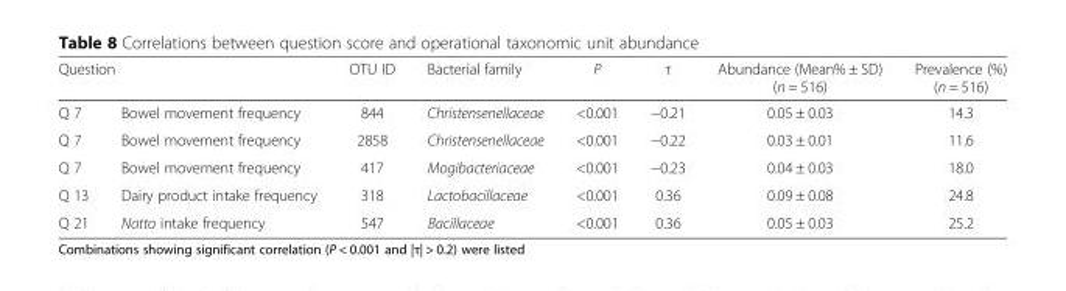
<table><thead><tr><td colspan="2">Question</td><td rowspan="2">OTU ID 844</td><td rowspan="2">Bacterial family Christensenellaceae</td><td rowspan="2">P &lt;0.001</td><td rowspan="2">τ −0.21</td><td rowspan="2">Abundance (Mean% ± SD) (n = 516) 0.05 ± 0.03</td><td rowspan="2">Prevalence (%) (n = 516) 14.3</td></tr><tr><td>Q 7</td><td>Bowel movement frequency</td></tr></thead><tbody><tr><td>Q 7</td><td>Bowel movement frequency</td><td>2858</td><td>Christensenellaceae</td><td>&lt;0.001</td><td>−0.22</td><td>0.03 ± 0.01</td><td>11.6</td></tr><tr><td>Q 7</td><td>Bowel movement frequency</td><td>417</td><td>Mogibacteriaceae</td><td>&lt;0.001</td><td>−0.23</td><td>0.04 ± 0.03</td><td>18.0</td></tr><tr><td>Q 13</td><td>Dairy product intake frequency</td><td>318</td><td>Lactobacillaceae</td><td>&lt;0.001</td><td>0.36</td><td>0.09 ± 0.08</td><td>24.8</td></tr><tr><td>Q 21</td><td>Natto intake frequency</td><td>547</td><td>Bacillaceae</td><td>&lt;0.001</td><td>0.36</td><td>0.05 ± 0.03</td><td>25.2</td></tr></tbody></table>